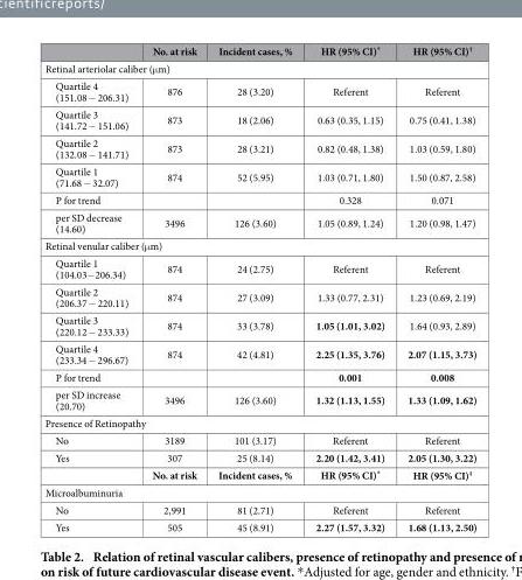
<table><thead><tr><td></td><td>No. at risk</td><td>Incident cases, %</td><td>HR (95% CI)*</td><td>HR (95% CI)†</td></tr></thead><tbody><tr><td colspan="5">Retinal arteriolar caliber (μ m)</td></tr><tr><td>Quartile 4 (151.08 − 206.31)</td><td>876</td><td>28 (3.20)</td><td>Referent</td><td>Referent</td></tr><tr><td>Quartile 3 (141.72 − 151.06)</td><td>873</td><td>18 (2.06)</td><td>0.63 (0.35, 1.15)</td><td>0.75 (0.41, 1.38)</td></tr><tr><td>Quartile 2 (132.08 − 141.71)</td><td>873</td><td>28 (3.21)</td><td>0.82 (0.48, 1.38)</td><td>1.03 (0.59, 1.80)</td></tr><tr><td>Quartile 1 (71.68 − 32.07)</td><td>874</td><td>52 (5.95)</td><td>1.03 (0.71, 1.80)</td><td>1.50 (0.87, 2.58)</td></tr><tr><td>P for trend</td><td></td><td></td><td>0.328</td><td>0.071</td></tr><tr><td>per SD decrease (14.60)</td><td>3496</td><td>126 (3.60)</td><td>1.05 (0.89, 1.24)</td><td>1.20 (0.98, 1.47)</td></tr><tr><td colspan="5">Retinal venular caliber (μ m)</td></tr><tr><td>Quartile 1 (104.03− 206.34)</td><td>874</td><td>24 (2.75)</td><td>Referent</td><td>Referent</td></tr><tr><td>Quartile 2 (206.37 − 220.11)</td><td>874</td><td>27 (3.09)</td><td>1.33 (0.77, 2.31)</td><td>1.23 (0.69, 2.19)</td></tr><tr><td>Quartile 3 (220.12 − 233.33)</td><td>874</td><td>33 (3.78)</td><td>1.05 (1.01, 3.02)</td><td>1.64 (0.93, 2.89)</td></tr><tr><td>Quartile 4 (233.34 − 296.67)</td><td>874</td><td>42 (4.81)</td><td>2.25 (1.35, 3.76)</td><td>2.07 (1.15, 3.73)</td></tr><tr><td>P for trend</td><td></td><td></td><td>0.001</td><td>0.008</td></tr><tr><td>per SD increase (20.70)</td><td>3496</td><td>126 (3.60)</td><td>1.32 (1.13, 1.55)</td><td>1.33 (1.09, 1.62)</td></tr><tr><td colspan="5">Presence of Retinopathy</td></tr><tr><td>No</td><td>3189</td><td>101 (3.17)</td><td>Referent</td><td>Referent</td></tr><tr><td rowspan="2">Yes</td><td>307</td><td>25 (8.14)</td><td>2.20 (1.42, 3.41)</td><td>2.05 (1.30, 3.22)</td></tr><tr><td>No. at risk</td><td>Incident cases, %</td><td>HR (95% CI)*</td><td>HR (95% CI)‡</td></tr><tr><td colspan="5">Microalbuminuria</td></tr><tr><td>No</td><td>2,991</td><td>81 (2.71)</td><td>Referent</td><td>Referent</td></tr><tr><td>Yes</td><td>505</td><td>45 (8.91)</td><td>2.27 (1.57, 3.32)</td><td>1.68 (1.13, 2.50)</td></tr></tbody></table>